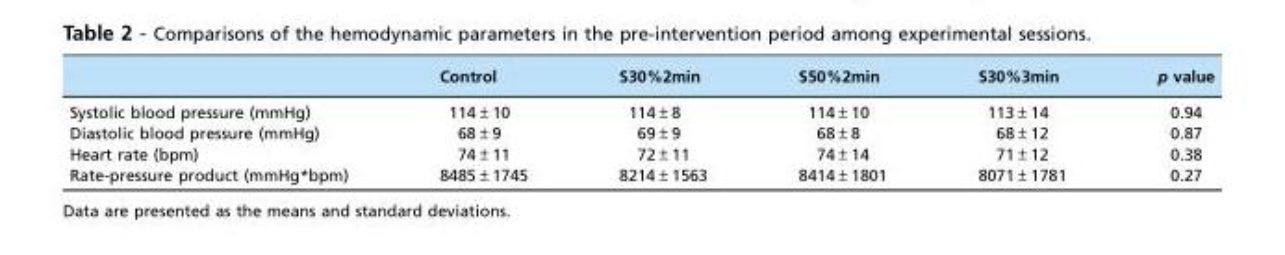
<table><thead><tr><td></td><td>Control</td><td>S30%2min</td><td>S50%2min</td><td>S30%3min</td><td>p value</td></tr></thead><tbody><tr><td>Systolic blood pressure (mmHg)</td><td>114±10</td><td>114±8</td><td>114±10</td><td>113±14</td><td>0.94</td></tr><tr><td>Diastolic blood pressure (mmHg)</td><td>68±9</td><td>69±9</td><td>68±8</td><td>68±12</td><td>0.87</td></tr><tr><td>Heart rate (bpm)</td><td>74±11</td><td>72±11</td><td>74±14</td><td>71±12</td><td>0.38</td></tr><tr><td>Rate-pressure product (mmHg*bpm)</td><td>8485±1745</td><td>8214±1563</td><td>8414±1801</td><td>8071±1781</td><td>0.27</td></tr></tbody></table>